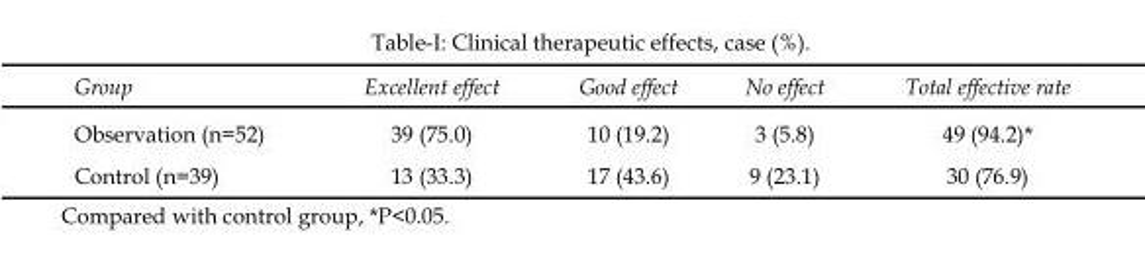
<table><thead><tr><td>Group</td><td>Excellent effect</td><td>Good effect</td><td>No effect</td><td>Total effective rate</td></tr></thead><tbody><tr><td>Observation (n=52)</td><td>39 (75.0)</td><td>10 (19.2)</td><td>3 (5.8)</td><td>49 (94.2)*</td></tr><tr><td>Control (n=39)</td><td>13 (33.3)</td><td>17 (43.6)</td><td>9 (23.1)</td><td>30 (76.9)</td></tr></tbody></table>